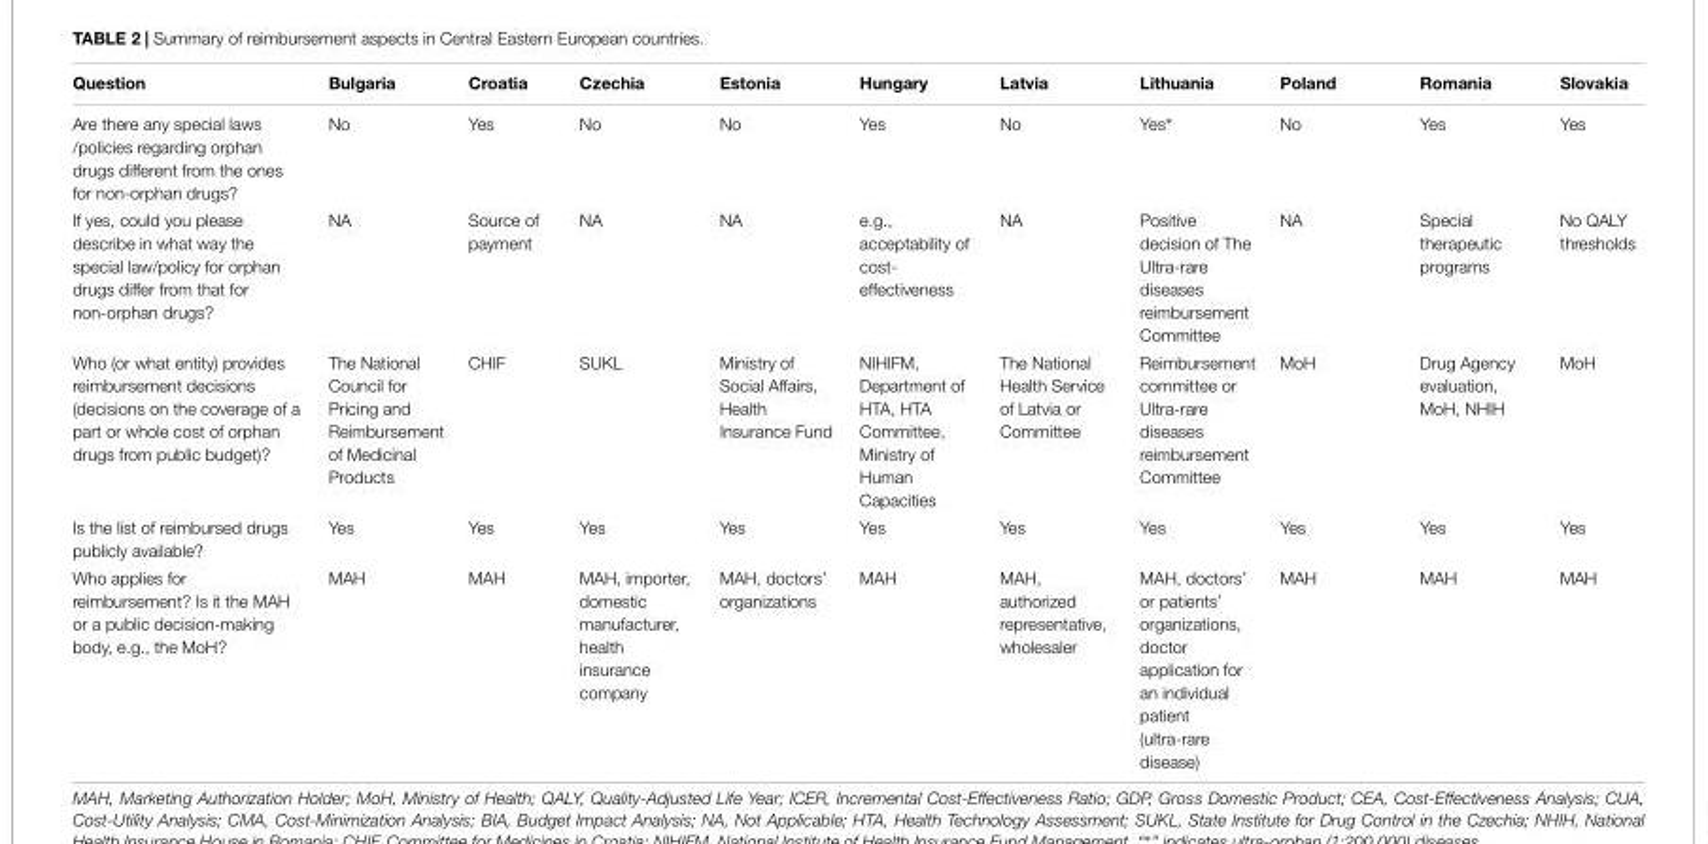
<table><thead><tr><td>Question</td><td>Bulgaria</td><td>Croatia</td><td>Czechia</td><td>Estonia</td><td>Hungary</td><td>Latvia</td><td>Lithuania</td><td>Poland</td><td>Romania</td><td>Slovakia</td></tr></thead><tbody><tr><td>Are there any special laws /policies regarding orphan drugs different from the ones for non-orphan drugs?</td><td>No</td><td>Yes</td><td>No</td><td>No</td><td>Yes</td><td>No</td><td>Yes∗</td><td>No</td><td>Yes</td><td>Yes</td></tr><tr><td>If yes, could you please describe in what way the special law/policy for orphan drugs differ from that for non-orphan drugs?</td><td>NA</td><td>Source of payment</td><td>NA</td><td>NA</td><td>e.g., acceptability of cost- effectiveness</td><td>NA</td><td>Positive decision of The Ultra-rare diseases reimbursement Committee</td><td>NA</td><td>Special therapeutic programs</td><td>No QALY thresholds</td></tr><tr><td>Who (or what entity) provides reimbursement decisions (decisions on the coverage of a part or whole cost of orphan drugs from public budget)?</td><td>The National Council for Pricing and Reimbursement of Medicinal Products</td><td>CHIF</td><td>SUKL</td><td>Ministry of Social Affairs, Health Insurance Fund</td><td>NIHIFM, Department of HTA, HTA Committee, Ministry of Human Capacities</td><td>The National Health Service of Latvia or Committee</td><td>Reimbursement committee or Ultra-rare diseases reimbursement Committee</td><td>MoH</td><td>Drug Agency evaluation, MoH, NHIH</td><td>MoH</td></tr><tr><td>Is the list of reimbursed drugs publicly available?</td><td>Yes</td><td>Yes</td><td>Yes</td><td>Yes</td><td>Yes</td><td>Yes</td><td>Yes</td><td>Yes</td><td>Yes</td><td>Yes</td></tr><tr><td>Who applies for reimbursement? Is it the MAH or a public decision-making body, e.g., the MoH?</td><td>MAH</td><td>MAH</td><td>MAH, importer, domestic manufacturer, health insurance company</td><td>MAH, doctors’ organizations</td><td>MAH</td><td>MAH, authorized representative, wholesaler</td><td>MAH, doctors’ or patients’ organizations, doctor application for an individual patient (ultra-rare disease)</td><td>MAH</td><td>MAH</td><td>MAH</td></tr></tbody></table>